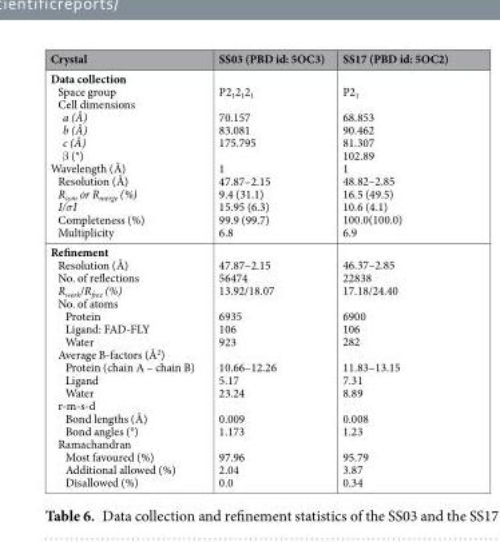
<table><thead><tr><td>Crystal</td><td>SS03 (PBD id: 5OC3)</td><td>SS17 (PBD id: 5OC2)</td></tr></thead><tbody><tr><td>Data collection Space group Cell dimensions a (Å) b (Å) c (Å) β (°) Wavelength (Å) Resolution (Å) R<sub>sym</sub> or R<sub>merge</sub> (%) I/σI Completeness (%) Multiplicity</td><td>P2<sub>1</sub>2<sub>1</sub>2<sub>1</sub> 70.157 83.081 175.795 1 47.87–2.15 9.4 (31.1) 15.95 (6.3) 99.9 (99.7) 6.8</td><td>P2<sub>1</sub> 68.853 90.462 81.307 102.89 1 48.82–2.85 16.5 (49.5) 10.6 (4.1) 100.0(100.0) 6.9</td></tr><tr><td>Refinement Resolution (Å) No. of reflections R<sub>work</sub>/R<sub>free</sub> (%) No. of atoms Protein Ligand: FAD-FLY Water Average B-factors (Å<sup>2</sup>) Protein (chain A – chain B) Ligand Water r-m-s-d Bond lengths (Å) Bond angles (°) Ramachandran Most favoured (%) Additional allowed (%) Disallowed (%)</td><td>47.87–2.15 56474 13.92/18.07 6935 106 923 10.66–12.26 5.17 23.24 0.009 1.173 97.96 2.04 0.0</td><td>46.37–2.85 22838 17.18/24.40 6900 106 282 11.83–13.15 7.31 8.89 0.008 1.23 95.79 3.87 0.34</td></tr></tbody></table>